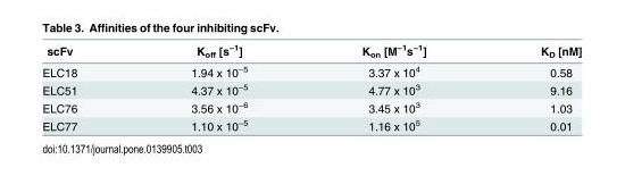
<table><thead><tr><td>scFv</td><td>K<sub>off</sub> [s<sup>−1</sup>]</td><td>K<sub>on</sub> [M<sup>−1</sup>s<sup>−1</sup>]</td><td>K<sub>D</sub> [nM]</td></tr></thead><tbody><tr><td>ELC18</td><td>1.94 x 10<sup>−5</sup></td><td>3.37 x 10<sup>4</sup></td><td>0.58</td></tr><tr><td>ELC51</td><td>4.37 x 10<sup>−5</sup></td><td>4.77 x 10<sup>3</sup></td><td>9.16</td></tr><tr><td>ELC76</td><td>3.56 x 10<sup>−6</sup></td><td>3.45 x 10<sup>3</sup></td><td>1.03</td></tr><tr><td>ELC77</td><td>1.10 x 10<sup>−5</sup></td><td>1.16 x 10<sup>5</sup></td><td>0.01</td></tr></tbody></table>